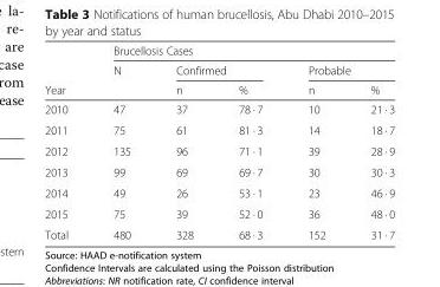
<table><thead><tr><td rowspan="3">Year</td><td colspan="5">Brucellosis Cases</td></tr><tr><td rowspan="2">N</td><td colspan="2">Confirmed</td><td colspan="2">Probable</td></tr><tr><td>n</td><td>%</td><td>n</td><td>%</td></tr></thead><tbody><tr><td>2010</td><td>47</td><td>37</td><td>78 · 7</td><td>10</td><td>21 · 3</td></tr><tr><td>2011</td><td>75</td><td>61</td><td>81 · 3</td><td>14</td><td>18 · 7</td></tr><tr><td>2012</td><td>135</td><td>96</td><td>71 · 1</td><td>39</td><td>28 · 9</td></tr><tr><td>2013</td><td>99</td><td>69</td><td>69 · 7</td><td>30</td><td>30 · 3</td></tr><tr><td>2014</td><td>49</td><td>26</td><td>53 · 1</td><td>23</td><td>46 · 9</td></tr><tr><td>2015</td><td>75</td><td>39</td><td>52 · 0</td><td>36</td><td>48 · 0</td></tr><tr><td>Total</td><td>480</td><td>328</td><td>68 · 3</td><td>152</td><td>31 · 7</td></tr></tbody></table>